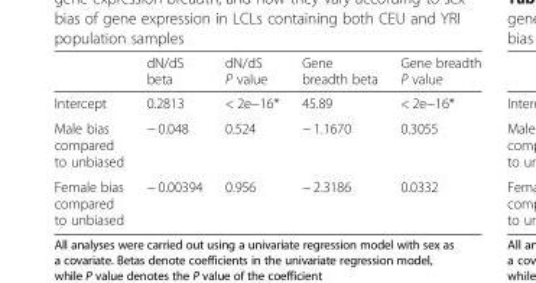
<table><thead><tr><td></td><td>dN/dS beta</td><td>dN/dS P value</td><td>Gene breadth beta</td><td>Gene breadth P value</td></tr></thead><tbody><tr><td>Intercept</td><td>0.2813</td><td>&lt; 2e−16*</td><td>45.89</td><td>&lt; 2e−16*</td></tr><tr><td>Male bias compared to unbiased</td><td>− 0.048</td><td>0.524</td><td>− 1.1670</td><td>0.3055</td></tr><tr><td>Female bias compared to unbiased</td><td>− 0.00394</td><td>0.956</td><td>− 2.3186</td><td>0.0332</td></tr></tbody></table>